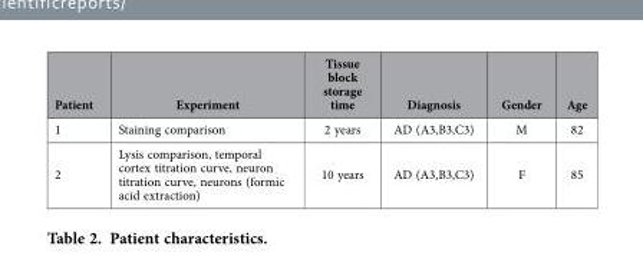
<table><thead><tr><td>Patient</td><td>Experiment</td><td>Tissue block storage time</td><td>Diagnosis</td><td>Gender</td><td>Age</td></tr></thead><tbody><tr><td>1</td><td>Staining comparison</td><td>2 years</td><td>AD (A3,B3,C3)</td><td>M</td><td>82</td></tr><tr><td>2</td><td>Lysis comparison, temporal cortex titration curve, neuron titration curve, neurons (formic acid extraction)</td><td>10 years</td><td>AD (A3,B3,C3)</td><td>F</td><td>85</td></tr></tbody></table>